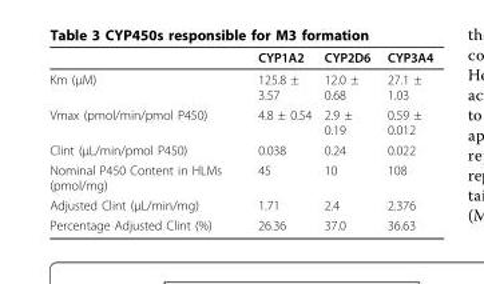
<table><thead><tr><td></td><td>CYP1A2</td><td>CYP2D6</td><td>CYP3A4</td></tr></thead><tbody><tr><td>Km (μM)</td><td>125.8 ± 3.57</td><td>12.0 ± 0.68</td><td>27.1 ± 1.03</td></tr><tr><td>Vmax (pmol/min/pmol P450)</td><td>4.8 ± 0.54</td><td>2.9 ± 0.19</td><td>0.59 ± 0.012</td></tr><tr><td>Clint (μL/min/pmol P450)</td><td>0.038</td><td>0.24</td><td>0.022</td></tr><tr><td>Nominal P450 Content in HLMs (pmol/mg)</td><td>45</td><td>10</td><td>108</td></tr><tr><td>Adjusted Clint (μL/min/mg)</td><td>1.71</td><td>2.4</td><td>2.376</td></tr><tr><td>Percentage Adjusted Clint (%)</td><td>26.36</td><td>37.0</td><td>36.63</td></tr></tbody></table>